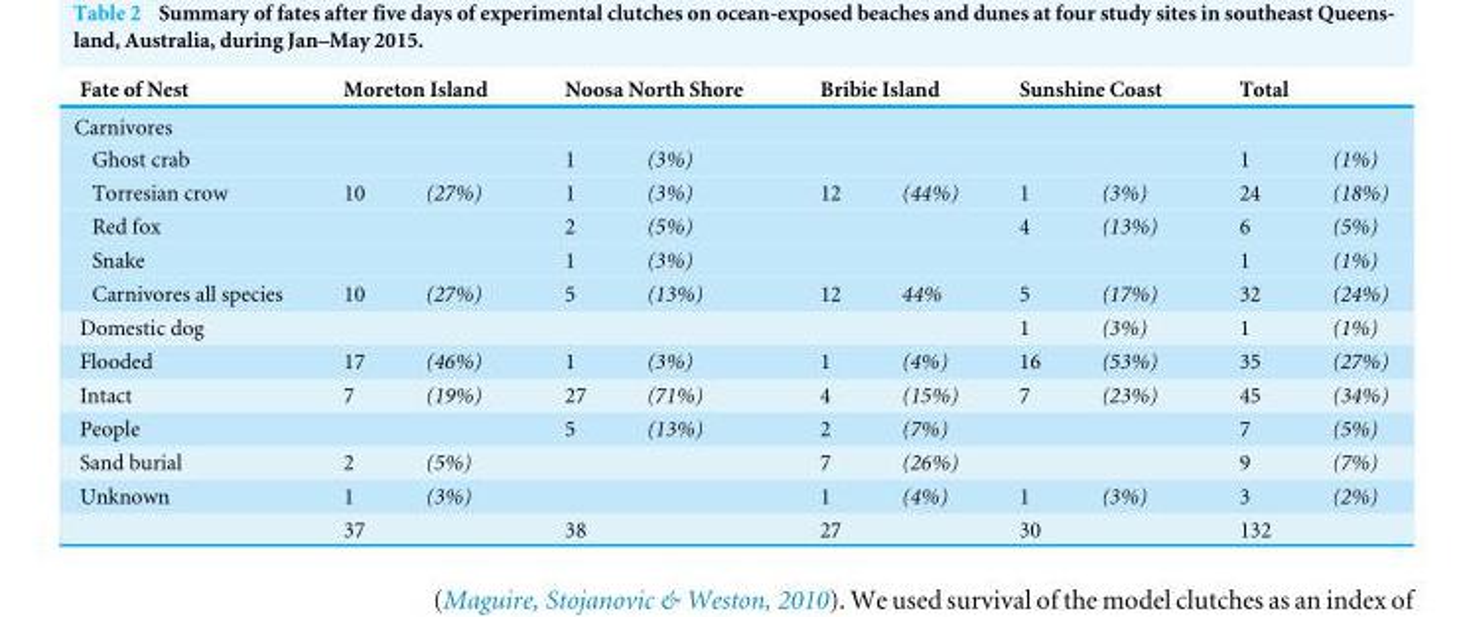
<table><thead><tr><td>Fate of Nest</td><td colspan="2">Moreton Island</td><td colspan="2">Noosa North Shore</td><td colspan="2">Bribie Island</td><td colspan="2">Sunshine Coast</td><td colspan="2">Total</td></tr><tr><td colspan="11">Carnivores</td></tr><tr><td>Ghost crab</td><td></td><td></td><td>1</td><td>(3%)</td><td></td><td></td><td></td><td></td><td>1</td><td>(1%)</td></tr></thead><tbody><tr><td>Torresian crow</td><td>10</td><td>(27%)</td><td>1</td><td>(3%)</td><td>12</td><td>(44%)</td><td>1</td><td>(3%)</td><td>24</td><td>(18%)</td></tr><tr><td>Red fox</td><td></td><td></td><td>2</td><td>(5%)</td><td></td><td></td><td>4</td><td>(13%)</td><td>6</td><td>(5%)</td></tr><tr><td>Snake</td><td></td><td></td><td>1</td><td>(3%)</td><td></td><td></td><td></td><td></td><td>1</td><td>(1%)</td></tr><tr><td>Carnivores all species</td><td>10</td><td>(27%)</td><td>5</td><td>(13%)</td><td>12</td><td>44%</td><td>5</td><td>(17%)</td><td>32</td><td>(24%)</td></tr><tr><td>Domestic dog</td><td></td><td></td><td></td><td></td><td></td><td></td><td>1</td><td>(3%)</td><td>1</td><td>(1%)</td></tr><tr><td>Flooded</td><td>17</td><td>(46%)</td><td>1</td><td>(3%)</td><td>1</td><td>(4%)</td><td>16</td><td>(53%)</td><td>35</td><td>(27%)</td></tr><tr><td>Intact</td><td>7</td><td>(19%)</td><td>27</td><td>(71%)</td><td>4</td><td>(15%)</td><td>7</td><td>(23%)</td><td>45</td><td>(34%)</td></tr><tr><td>People</td><td></td><td></td><td>5</td><td>(13%)</td><td>2</td><td>(7%)</td><td></td><td></td><td>7</td><td>(5%)</td></tr><tr><td>Sand burial</td><td>2</td><td>(5%)</td><td></td><td></td><td>7</td><td>(26%)</td><td></td><td></td><td>9</td><td>(7%)</td></tr><tr><td rowspan="2">Unknown</td><td>1</td><td>(3%)</td><td></td><td></td><td>1</td><td>(4%)</td><td>1</td><td>(3%)</td><td>3</td><td>(2%)</td></tr><tr><td>37</td><td></td><td>38</td><td></td><td>27</td><td></td><td>30</td><td></td><td>132</td><td></td></tr></tbody></table>